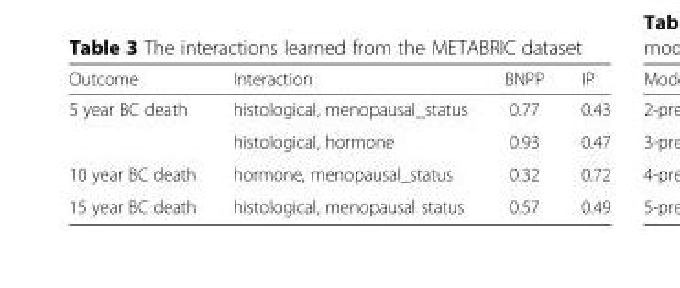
<table><thead><tr><td>Outcome</td><td>Interaction</td><td>BNPP</td><td>IP</td></tr></thead><tbody><tr><td rowspan="2">5 year BC death</td><td>histological, menopausal_status</td><td>0.77</td><td>0.43</td></tr><tr><td>histological, hormone</td><td>0.93</td><td>0.47</td></tr><tr><td>10 year BC death</td><td>hormone, menopausal_status</td><td>0.32</td><td>0.72</td></tr><tr><td>15 year BC death</td><td>histological, menopausal status</td><td>0.57</td><td>0.49</td></tr></tbody></table>